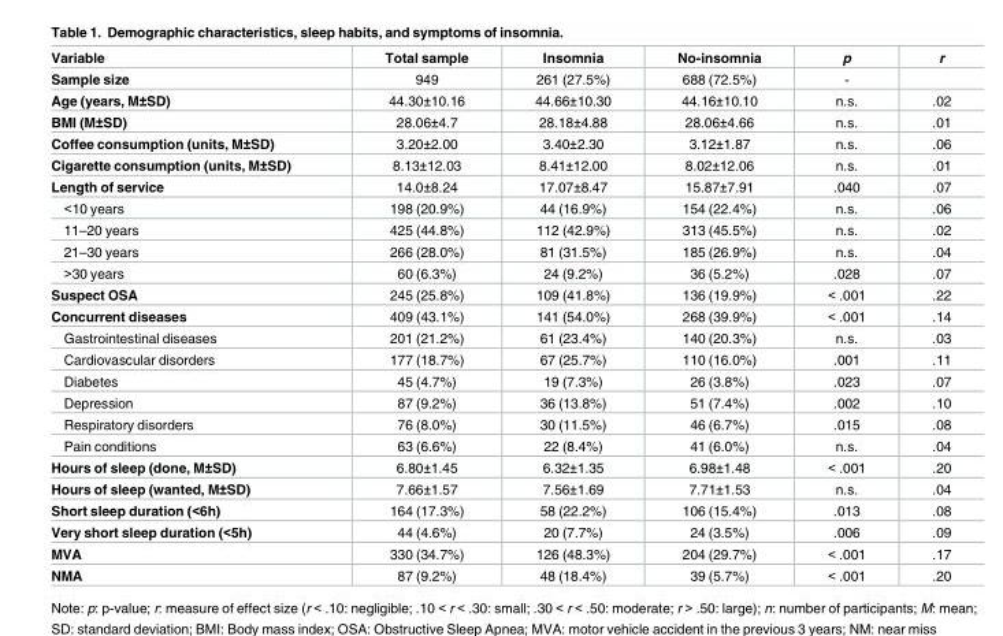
<table><thead><tr><td>Variable</td><td>Total sample</td><td>Insomnia</td><td>No-insomnia</td><td>p</td><td>r</td></tr></thead><tbody><tr><td>Sample size</td><td>949</td><td>261 (27.5%)</td><td>688 (72.5%)</td><td>-</td><td></td></tr><tr><td>Age (years, M±SD)</td><td>44.30±10.16</td><td>44.66±10.30</td><td>44.16±10.10</td><td>n.s.</td><td>.02</td></tr><tr><td>BMI (M±SD)</td><td>28.06±4.7</td><td>28.18±4.88</td><td>28.06±4.66</td><td>n.s.</td><td>.01</td></tr><tr><td>Coffee consumption (units, M±SD)</td><td>3.20±2.00</td><td>3.40±2.30</td><td>3.12±1.87</td><td>n.s.</td><td>.06</td></tr><tr><td>Cigarette consumption (units, M±SD)</td><td>8.13±12.03</td><td>8.41±12.00</td><td>8.02±12.06</td><td>n.s.</td><td>.01</td></tr><tr><td>Length of service</td><td>14.0±8.24</td><td>17.07±8.47</td><td>15.87±7.91</td><td>.040</td><td>.07</td></tr><tr><td>&lt;10 years</td><td>198 (20.9%)</td><td>44 (16.9%)</td><td>154 (22.4%)</td><td>n.s.</td><td>.06</td></tr><tr><td>11–20 years</td><td>425 (44.8%)</td><td>112 (42.9%)</td><td>313 (45.5%)</td><td>n.s.</td><td>.02</td></tr><tr><td>21–30 years</td><td>266 (28.0%)</td><td>81 (31.5%)</td><td>185 (26.9%)</td><td>n.s.</td><td>.04</td></tr><tr><td>&gt;30 years</td><td>60 (6.3%)</td><td>24 (9.2%)</td><td>36 (5.2%)</td><td>.028</td><td>.07</td></tr><tr><td>Suspect OSA</td><td>245 (25.8%)</td><td>109 (41.8%)</td><td>136 (19.9%)</td><td>&lt; .001</td><td>.22</td></tr><tr><td>Concurrent diseases</td><td>409 (43.1%)</td><td>141 (54.0%)</td><td>268 (39.9%)</td><td>&lt; .001</td><td>.14</td></tr><tr><td>Gastrointestinal diseases</td><td>201 (21.2%)</td><td>61 (23.4%)</td><td>140 (20.3%)</td><td>n.s.</td><td>.03</td></tr><tr><td>Cardiovascular disorders</td><td>177 (18.7%)</td><td>67 (25.7%)</td><td>110 (16.0%)</td><td>.001</td><td>.11</td></tr><tr><td>Diabetes</td><td>45 (4.7%)</td><td>19 (7.3%)</td><td>26 (3.8%)</td><td>.023</td><td>.07</td></tr><tr><td>Depression</td><td>87 (9.2%)</td><td>36 (13.8%)</td><td>51 (7.4%)</td><td>.002</td><td>.10</td></tr><tr><td>Respiratory disorders</td><td>76 (8.0%)</td><td>30 (11.5%)</td><td>46 (6.7%)</td><td>.015</td><td>.08</td></tr><tr><td>Pain conditions</td><td>63 (6.6%)</td><td>22 (8.4%)</td><td>41 (6.0%)</td><td>n.s.</td><td>.04</td></tr><tr><td>Hours of sleep (done, M±SD)</td><td>6.80±1.45</td><td>6.32±1.35</td><td>6.98±1.48</td><td>&lt; .001</td><td>.20</td></tr><tr><td>Hours of sleep (wanted, M±SD)</td><td>7.66±1.57</td><td>7.56±1.69</td><td>7.71±1.53</td><td>n.s.</td><td>.04</td></tr><tr><td>Short sleep duration (&lt;6h)</td><td>164 (17.3%)</td><td>58 (22.2%)</td><td>106 (15.4%)</td><td>.013</td><td>.08</td></tr><tr><td>Very short sleep duration (&lt;5h)</td><td>44 (4.6%)</td><td>20 (7.7%)</td><td>24 (3.5%)</td><td>.006</td><td>.09</td></tr><tr><td>MVA</td><td>330 (34.7%)</td><td>126 (48.3%)</td><td>204 (29.7%)</td><td>&lt; .001</td><td>.17</td></tr><tr><td>NMA</td><td>87 (9.2%)</td><td>48 (18.4%)</td><td>39 (5.7%)</td><td>&lt; .001</td><td>.20</td></tr></tbody></table>